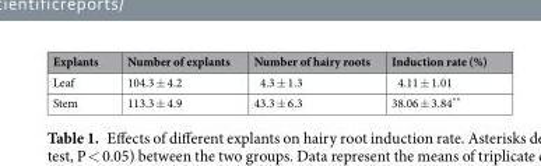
<table><thead><tr><td>Explants</td><td>Number of explants</td><td>Number of hairy roots</td><td>Induction rate (%)</td></tr></thead><tbody><tr><td>Leaf</td><td>104.3 ± 4.2</td><td>4.3 ± 1.3</td><td>4.11 ± 1.01</td></tr><tr><td>Stem</td><td>113.3 ± 4.9</td><td>43.3 ± 6.3</td><td>38.06 ± 3.84**</td></tr></tbody></table>